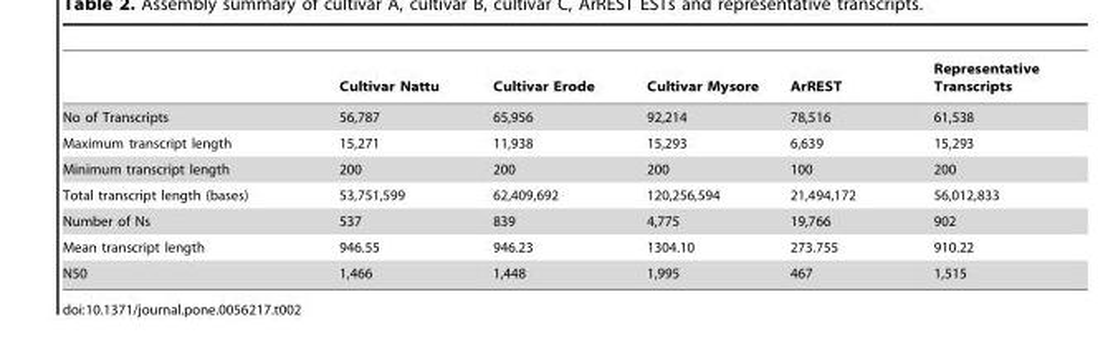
<table><thead><tr><td></td><td>Cultivar Nattu</td><td>Cultivar Erode</td><td>Cultivar Mysore</td><td>ArREST</td><td>Representative Transcripts</td></tr></thead><tbody><tr><td>No of Transcripts</td><td>56,787</td><td>65,956</td><td>92,214</td><td>78,516</td><td>61,538</td></tr><tr><td>Maximum transcript length</td><td>15,271</td><td>11,938</td><td>15,293</td><td>6,639</td><td>15,293</td></tr><tr><td>Minimum transcript length</td><td>200</td><td>200</td><td>200</td><td>100</td><td>200</td></tr><tr><td>Total transcript length (bases)</td><td>53,751,599</td><td>62,409,692</td><td>120,256,594</td><td>21,494,172</td><td>56,012,833</td></tr><tr><td>Number of Ns</td><td>537</td><td>839</td><td>4,775</td><td>19,766</td><td>902</td></tr><tr><td>Mean transcript length</td><td>946.55</td><td>946.23</td><td>1304.10</td><td>273.755</td><td>910.22</td></tr><tr><td>N50</td><td>1,466</td><td>1,448</td><td>1,995</td><td>467</td><td>1,515</td></tr></tbody></table>